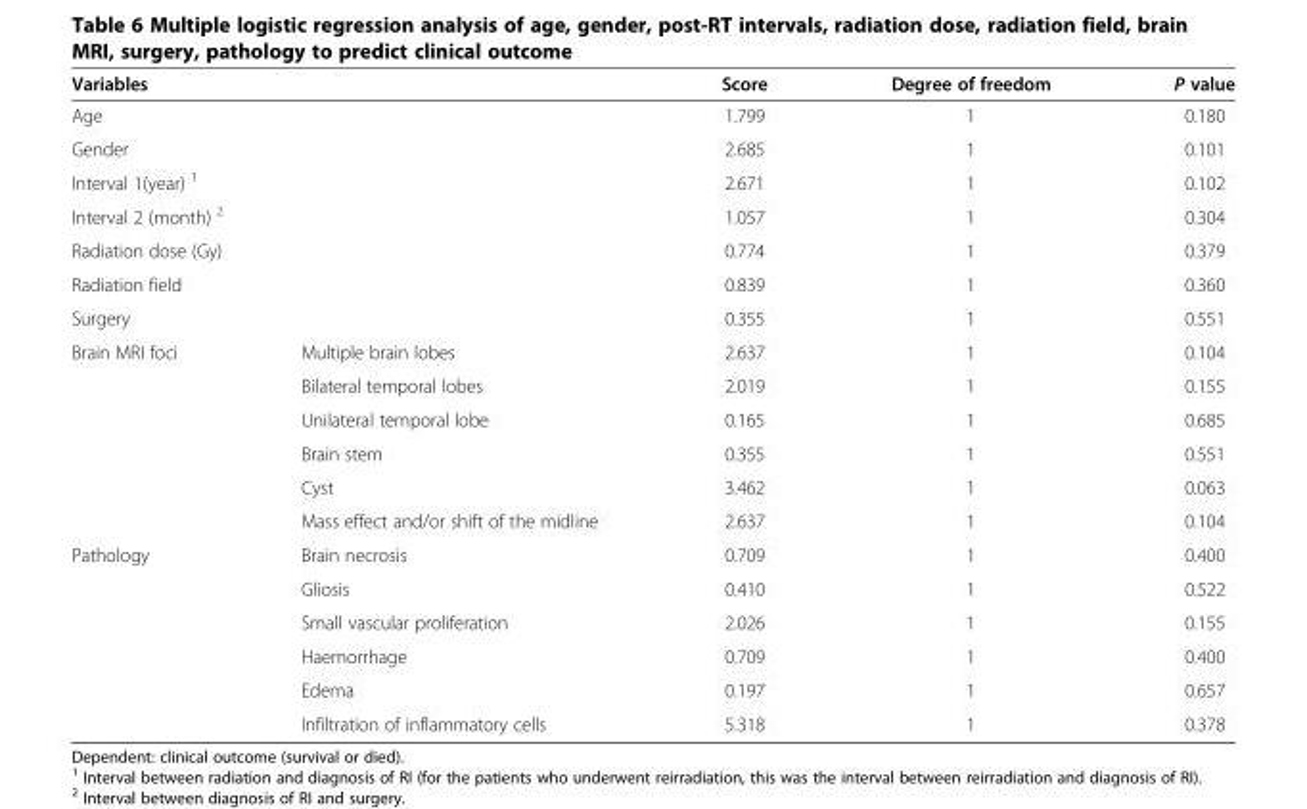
<table><thead><tr><td colspan="2">Variables</td><td>Score</td><td>Degree of freedom</td><td>P value</td></tr></thead><tbody><tr><td colspan="2">Age</td><td>1.799</td><td>1</td><td>0.180</td></tr><tr><td colspan="2">Gender</td><td>2.685</td><td>1</td><td>0.101</td></tr><tr><td colspan="2">Interval 1(year) <sup>1</sup></td><td>2.671</td><td>1</td><td>0.102</td></tr><tr><td colspan="2">Interval 2 (month) <sup>2</sup></td><td>1.057</td><td>1</td><td>0.304</td></tr><tr><td colspan="2">Radiation dose (Gy)</td><td>0.774</td><td>1</td><td>0.379</td></tr><tr><td colspan="2">Radiation field</td><td>0.839</td><td>1</td><td>0.360</td></tr><tr><td colspan="2">Surgery</td><td>0.355</td><td>1</td><td>0.551</td></tr><tr><td rowspan="6">Brain MRI foci</td><td>Multiple brain lobes</td><td>2.637</td><td>1</td><td>0.104</td></tr><tr><td>Bilateral temporal lobes</td><td>2.019</td><td>1</td><td>0.155</td></tr><tr><td>Unilateral temporal lobe</td><td>0.165</td><td>1</td><td>0.685</td></tr><tr><td>Brain stem</td><td>0.355</td><td>1</td><td>0.551</td></tr><tr><td>Cyst</td><td>3.462</td><td>1</td><td>0.063</td></tr><tr><td>Mass effect and/or shift of the midline</td><td>2.637</td><td>1</td><td>0.104</td></tr><tr><td rowspan="6">Pathology</td><td>Brain necrosis</td><td>0.709</td><td>1</td><td>0.400</td></tr><tr><td>Gliosis</td><td>0.410</td><td>1</td><td>0.522</td></tr><tr><td>Small vascular proliferation</td><td>2.026</td><td>1</td><td>0.155</td></tr><tr><td>Haemorrhage</td><td>0.709</td><td>1</td><td>0.400</td></tr><tr><td>Edema</td><td>0.197</td><td>1</td><td>0.657</td></tr><tr><td>Infiltration of inflammatory cells</td><td>5.318</td><td>1</td><td>0.378</td></tr></tbody></table>